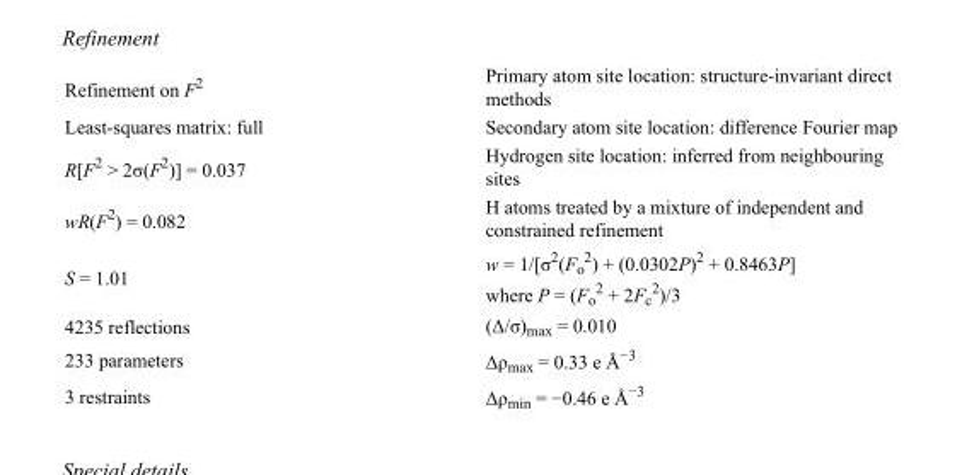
<table><tbody><tr><td>Refinement on F<sup>2</sup></td><td>Primary atom site location: structure-invariant direct methods</td></tr><tr><td>Least-squares matrix: full</td><td>Secondary atom site location: difference Fourier map</td></tr><tr><td>R[F<sup>2</sup> &gt; 2σ(F<sup>2</sup>)] = 0.037</td><td>Hydrogen site location: inferred from neighbouring sites</td></tr><tr><td>wR(F<sup>2</sup>) = 0.082</td><td>H atoms treated by a mixture of independent and constrained refinement</td></tr><tr><td>S = 1.01</td><td>w = 1/[σ<sup>2</sup>(F<sub>o</sub> <sup>2</sup>) + (0.0302P)<sup>2</sup> + 0.8463P] where P = (F<sub>o</sub> <sup>2</sup> + 2F<sub>c</sub> <sup>2</sup>)/3</td></tr><tr><td>4235 reflections</td><td>(Δ/σ)<sub>max</sub> = 0.010</td></tr><tr><td>233 parameters</td><td>Δρ<sub>max</sub> = 0.33 e Å<sup>−3</sup></td></tr><tr><td>3 restraints</td><td>Δρ<sub>min</sub> = −0.46 e Å<sup>−3</sup></td></tr></tbody></table>